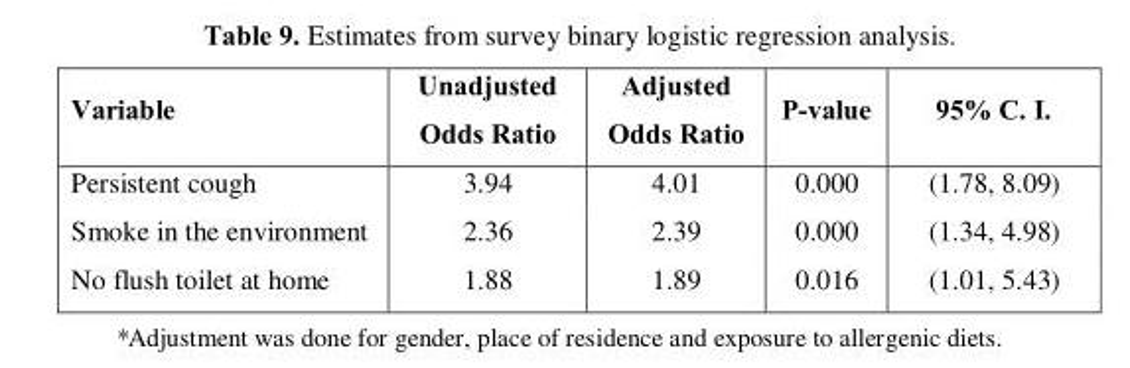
<table><thead><tr><td>Variable</td><td>Unadjusted Odds Ratio</td><td>Adjusted Odds Ratio</td><td>P-value</td><td>95% C. I.</td></tr></thead><tbody><tr><td>Persistent cough</td><td>3.94</td><td>4.01</td><td>0.000</td><td>(1.78, 8.09)</td></tr><tr><td>Smoke in the environment</td><td>2.36</td><td>2.39</td><td>0.000</td><td>(1.34, 4.98)</td></tr><tr><td>No flush toilet at home</td><td>1.88</td><td>1.89</td><td>0.016</td><td>(1.01, 5.43)</td></tr></tbody></table>